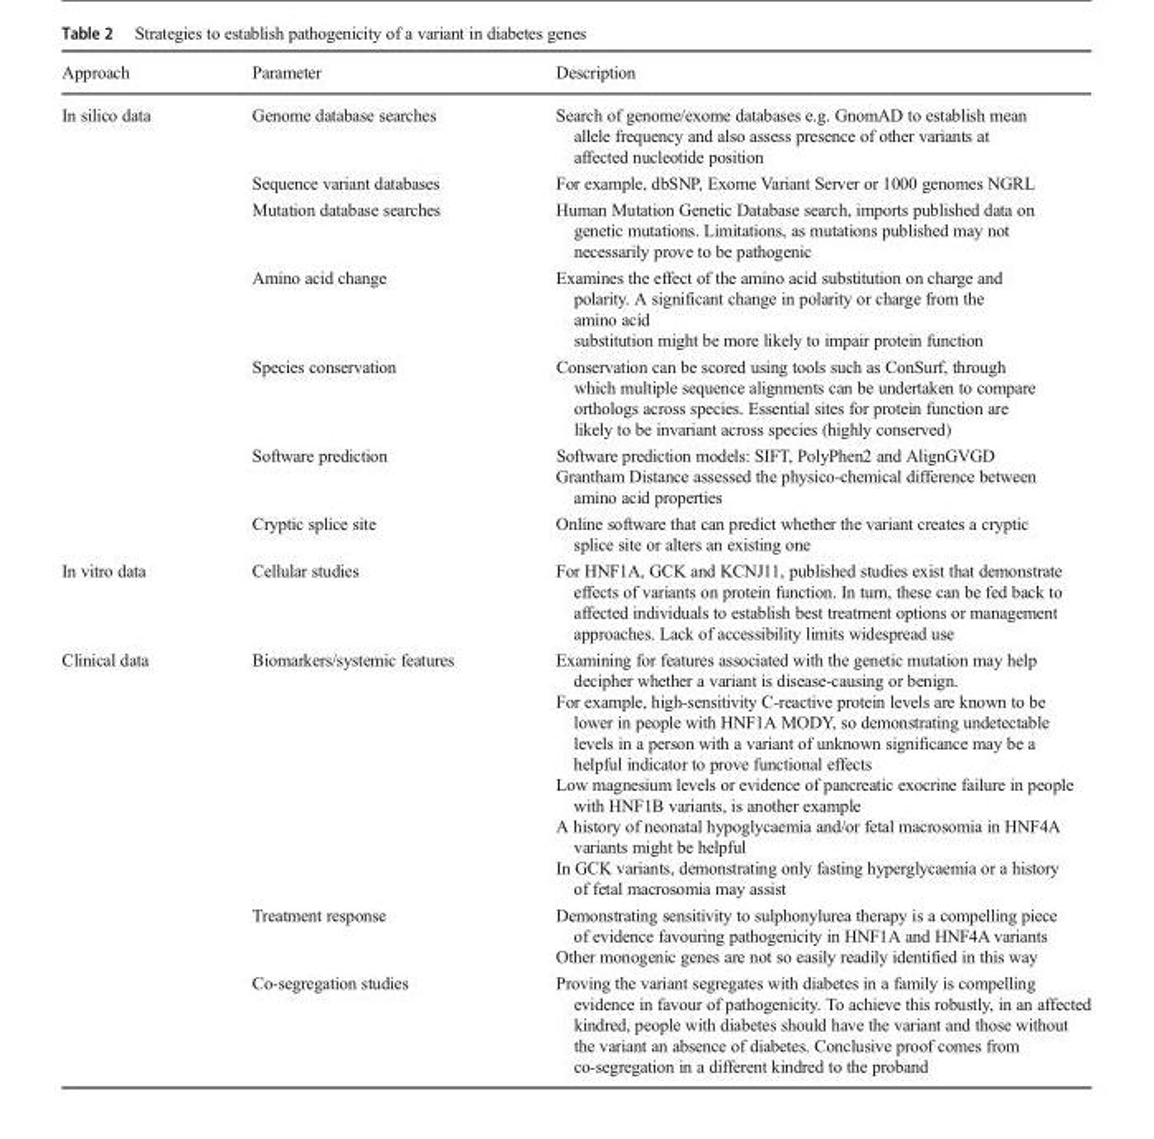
<table><thead><tr><td>Approach</td><td>Parameter</td><td>Description</td></tr></thead><tbody><tr><td rowspan="7">In silico data</td><td>Genome database searches</td><td>Search of genome/exome databases e.g. GnomAD to establish mean allele frequency and also assess presence of other variants at affected nucleotide position</td></tr><tr><td>Sequence variant databases</td><td>For example, dbSNP, Exome Variant Server or 1000 genomes NGRL</td></tr><tr><td>Mutation database searches</td><td>Human Mutation Genetic Database search, imports published data on genetic mutations. Limitations, as mutations published may not necessarily prove to be pathogenic</td></tr><tr><td>Amino acid change</td><td>Examines the effect of the amino acid substitution on charge and polarity. A significant change in polarity or charge from the amino acid substitution might be more likely to impair protein function</td></tr><tr><td>Species conservation</td><td>Conservation can be scored using tools such as ConSurf, through which multiple sequence alignments can be undertaken to compare orthologs across species. Essential sites for protein function are likely to be invariant across species (highly conserved)</td></tr><tr><td>Software prediction</td><td>Software prediction models: SIFT, PolyPhen2 and AlignGVGD Grantham Distance assessed the physico-chemical difference between amino acid properties</td></tr><tr><td>Cryptic splice site</td><td>Online software that can predict whether the variant creates a cryptic splice site or alters an existing one</td></tr><tr><td>In vitro data</td><td>Cellular studies</td><td>For HNF1A, GCK and KCNJ11, published studies exist that demonstrate effects of variants on protein function. In turn, these can be fed back to affected individuals to establish best treatment options or management approaches. Lack of accessibility limits widespread use</td></tr><tr><td rowspan="3">Clinical data</td><td>Biomarkers/systemic features</td><td>Examining for features associated with the genetic mutation may help decipher whether a variant is disease-causing or benign. For example, high-sensitivity C-reactive protein levels are known to be lower in people with HNF1A MODY, so demonstrating undetectable levels in a person with a variant of unknown significance may be a helpful indicator to prove functional effects Low magnesium levels or evidence of pancreatic exocrine failure in people with HNF1B variants, is another example A history of neonatal hypoglycaemia and/or fetal macrosomia in HNF4A variants might be helpful In GCK variants, demonstrating only fasting hyperglycaemia or a history of fetal macrosomia may assist</td></tr><tr><td>Treatment response</td><td>Demonstrating sensitivity to sulphonylurea therapy is a compelling piece of evidence favouring pathogenicity in HNF1A and HNF4A variants Other monogenic genes are not so easily readily identified in this way</td></tr><tr><td>Co-segregation studies</td><td>Proving the variant segregates with diabetes in a family is compelling evidence in favour of pathogenicity. To achieve this robustly, in an affected kindred, people with diabetes should have the variant and those without the variant an absence of diabetes. Conclusive proof comes from co-segregation in a different kindred to the proband</td></tr></tbody></table>